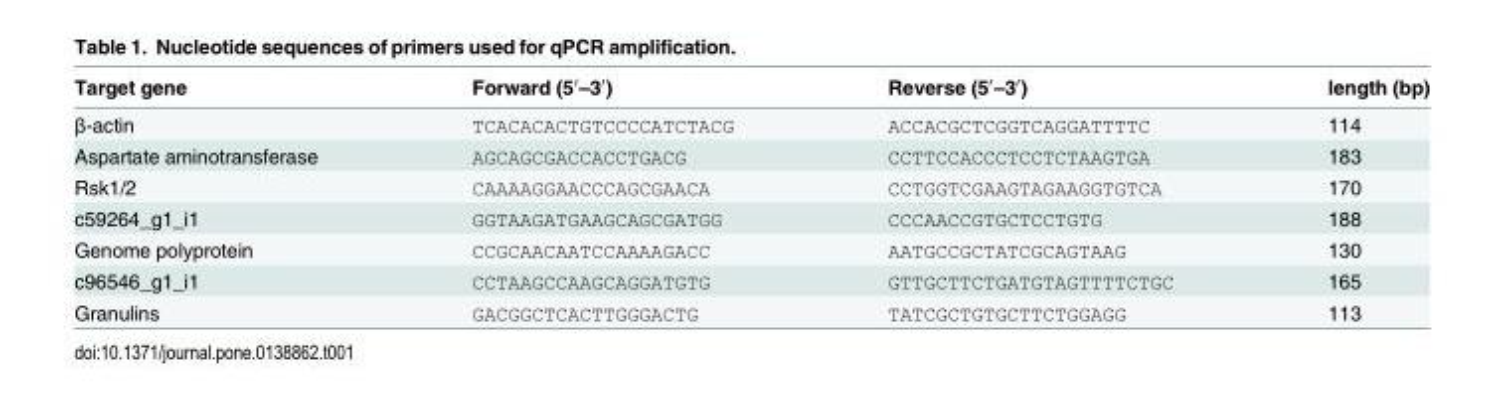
<table><thead><tr><td>Target gene</td><td>Forward (5′–3′)</td><td>Reverse (5′–3′)</td><td>length (bp)</td></tr></thead><tbody><tr><td>β-actin</td><td>TCACACACTGTCCCCATCTACG</td><td>ACCACGCTCGGTCAGGATTTTC</td><td>114</td></tr><tr><td>Aspartate aminotransferase</td><td>AGCAGCGACCACCTGACG</td><td>CCTTCCACCCTCCTCTAAGTGA</td><td>183</td></tr><tr><td>Rsk1/2</td><td>CAAAAGGAACCCAGCGAACA</td><td>CCTGGTCGAAGTAGAAGGTGTCA</td><td>170</td></tr><tr><td>c59264_g1_i1</td><td>GGTAAGATGAAGCAGCGATGG</td><td>CCCAACCGTGCTCCTGTG</td><td>188</td></tr><tr><td>Genome polyprotein</td><td>CCGCAACAATCCAAAAGACC</td><td>AATGCCGCTATCGCAGTAAG</td><td>130</td></tr><tr><td>c96546_g1_i1</td><td>CCTAAGCCAAGCAGGATGTG</td><td>GTTGCTTCTGATGTAGTTTTCTGC</td><td>165</td></tr><tr><td>Granulins</td><td>GACGGCTCACTTGGGACTG</td><td>TATCGCTGTGCTTCTGGAGG</td><td>113</td></tr></tbody></table>